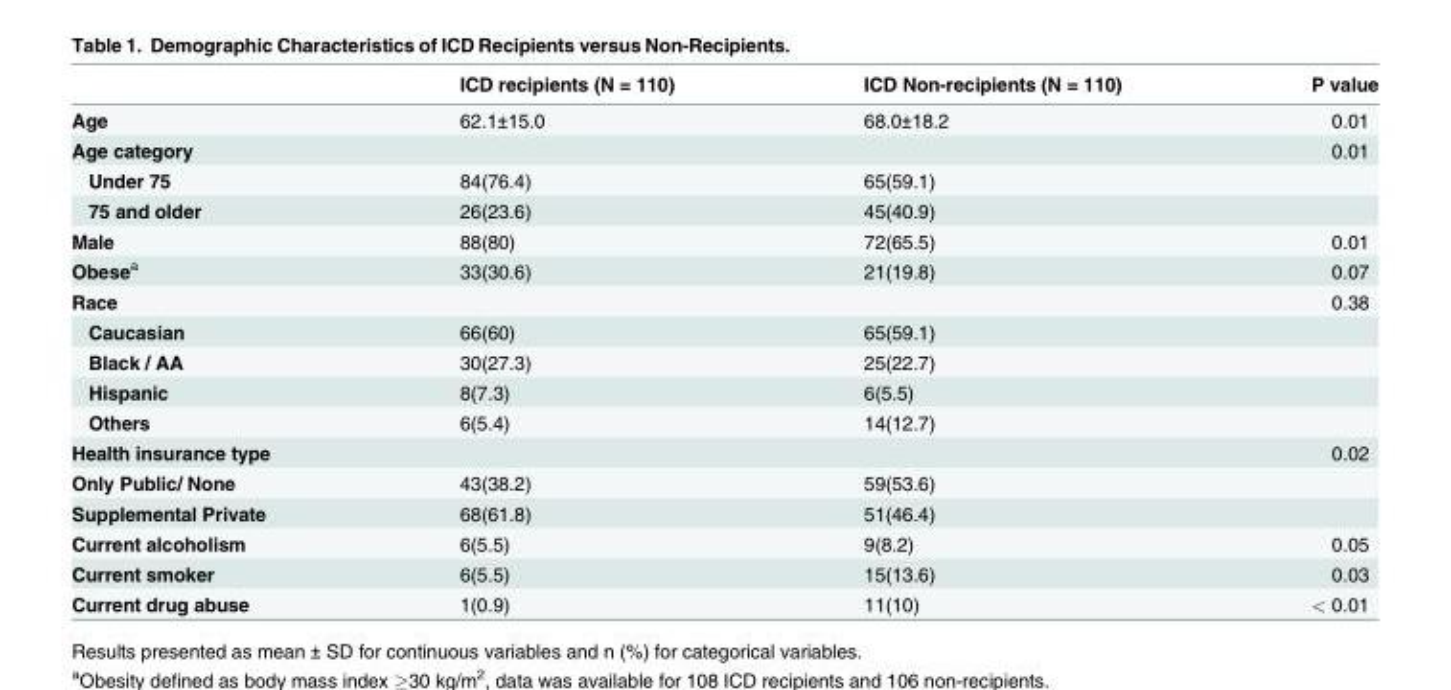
<table><thead><tr><td></td><td>ICD recipients (N = 110)</td><td>ICD Non-recipients (N = 110)</td><td>P value</td></tr></thead><tbody><tr><td>Age</td><td>62.1±15.0</td><td>68.0±18.2</td><td>0.01</td></tr><tr><td>Age category</td><td></td><td></td><td>0.01</td></tr><tr><td>Under 75</td><td>84(76.4)</td><td>65(59.1)</td><td></td></tr><tr><td>75 and older</td><td>26(23.6)</td><td>45(40.9)</td><td></td></tr><tr><td>Male</td><td>88(80)</td><td>72(65.5)</td><td>0.01</td></tr><tr><td>Obese<sup>a</sup></td><td>33(30.6)</td><td>21(19.8)</td><td>0.07</td></tr><tr><td>Race</td><td></td><td></td><td>0.38</td></tr><tr><td>Caucasian</td><td>66(60)</td><td>65(59.1)</td><td></td></tr><tr><td>Black / AA</td><td>30(27.3)</td><td>25(22.7)</td><td></td></tr><tr><td>Hispanic</td><td>8(7.3)</td><td>6(5.5)</td><td></td></tr><tr><td>Others</td><td>6(5.4)</td><td>14(12.7)</td><td></td></tr><tr><td>Health insurance type</td><td></td><td></td><td>0.02</td></tr><tr><td>Only Public/ None</td><td>43(38.2)</td><td>59(53.6)</td><td></td></tr><tr><td>Supplemental Private</td><td>68(61.8)</td><td>51(46.4)</td><td></td></tr><tr><td>Current alcoholism</td><td>6(5.5)</td><td>9(8.2)</td><td>0.05</td></tr><tr><td>Current smoker</td><td>6(5.5)</td><td>15(13.6)</td><td>0.03</td></tr><tr><td>Current drug abuse</td><td>1(0.9)</td><td>11(10)</td><td>&lt; 0.01</td></tr></tbody></table>